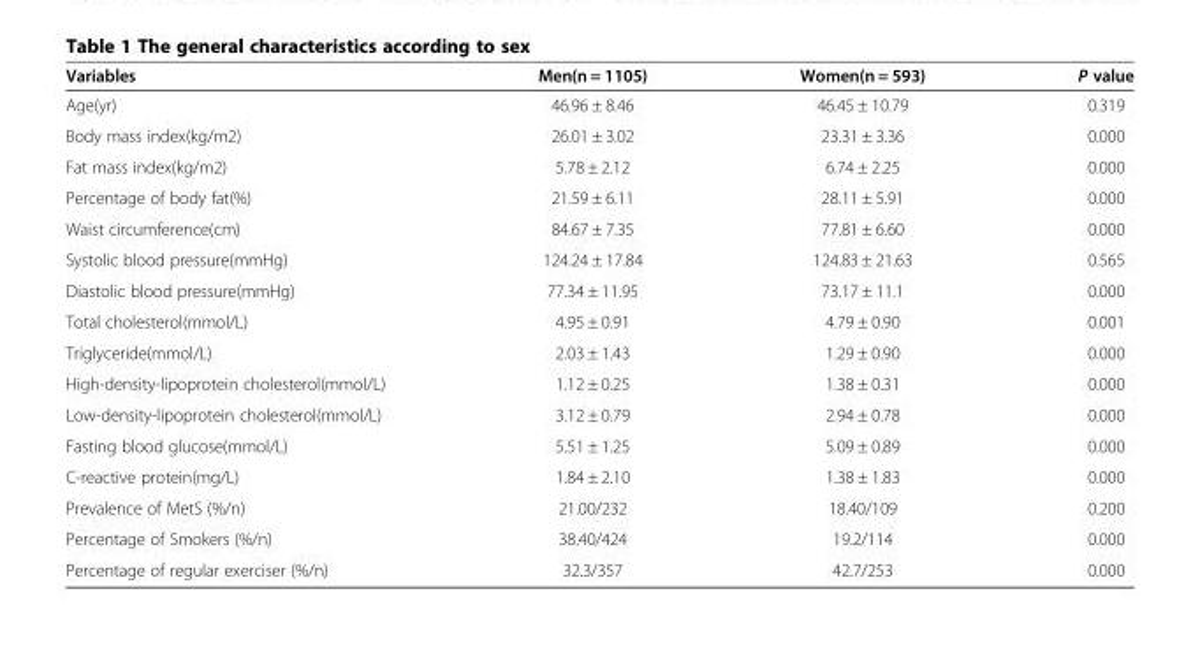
<table><thead><tr><td>Variables</td><td>Men(n = 1105)</td><td>Women(n = 593)</td><td>P value</td></tr></thead><tbody><tr><td>Age(yr)</td><td>46.96 ± 8.46</td><td>46.45 ± 10.79</td><td>0.319</td></tr><tr><td>Body mass index(kg/m2)</td><td>26.01 ± 3.02</td><td>23.31 ± 3.36</td><td>0.000</td></tr><tr><td>Fat mass index(kg/m2)</td><td>5.78 ± 2.12</td><td>6.74 ± 2.25</td><td>0.000</td></tr><tr><td>Percentage of body fat(%)</td><td>21.59 ± 6.11</td><td>28.11 ± 5.91</td><td>0.000</td></tr><tr><td>Waist circumference(cm)</td><td>84.67 ± 7.35</td><td>77.81 ± 6.60</td><td>0.000</td></tr><tr><td>Systolic blood pressure(mmHg)</td><td>124.24 ± 17.84</td><td>124.83 ± 21.63</td><td>0.565</td></tr><tr><td>Diastolic blood pressure(mmHg)</td><td>77.34 ± 11.95</td><td>73.17 ± 11.1</td><td>0.000</td></tr><tr><td>Total cholesterol(mmol/L)</td><td>4.95 ± 0.91</td><td>4.79 ± 0.90</td><td>0.001</td></tr><tr><td>Triglyceride(mmol/L)</td><td>2.03 ± 1.43</td><td>1.29 ± 0.90</td><td>0.000</td></tr><tr><td>High-density-lipoprotein cholesterol(mmol/L)</td><td>1.12 ± 0.25</td><td>1.38 ± 0.31</td><td>0.000</td></tr><tr><td>Low-density-lipoprotein cholesterol(mmol/L)</td><td>3.12 ± 0.79</td><td>2.94 ± 0.78</td><td>0.000</td></tr><tr><td>Fasting blood glucose(mmol/L)</td><td>5.51 ± 1.25</td><td>5.09 ± 0.89</td><td>0.000</td></tr><tr><td>C-reactive protein(mg/L)</td><td>1.84 ± 2.10</td><td>1.38 ± 1.83</td><td>0.000</td></tr><tr><td>Prevalence of MetS (%/n)</td><td>21.00/232</td><td>18.40/109</td><td>0.200</td></tr><tr><td>Percentage of Smokers (%/n)</td><td>38.40/424</td><td>19.2/114</td><td>0.000</td></tr><tr><td>Percentage of regular exerciser (%/n)</td><td>32.3/357</td><td>42.7/253</td><td>0.000</td></tr></tbody></table>